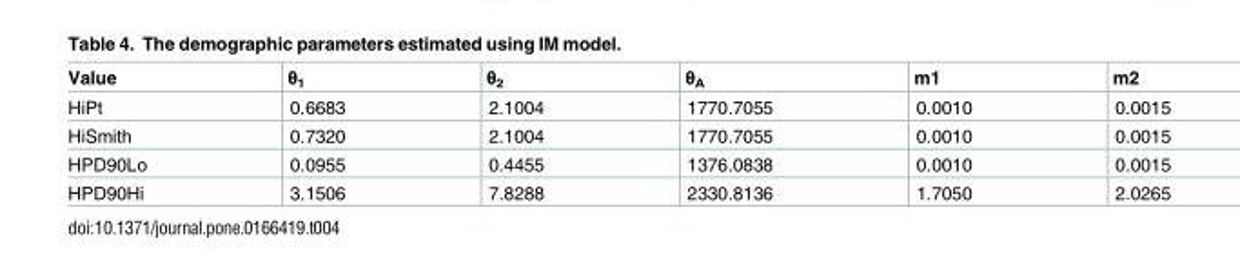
<table><thead><tr><td>Value</td><td>θ<sub>1</sub></td><td>θ<sub>2</sub></td><td>θ<sub>A</sub></td><td>m1</td><td>m2</td></tr></thead><tbody><tr><td>HiPt</td><td>0.6683</td><td>2.1004</td><td>1770.7055</td><td>0.0010</td><td>0.0015</td></tr><tr><td>HiSmith</td><td>0.7320</td><td>2.1004</td><td>1770.7055</td><td>0.0010</td><td>0.0015</td></tr><tr><td>HPD90Lo</td><td>0.0955</td><td>0.4455</td><td>1376.0838</td><td>0.0010</td><td>0.0015</td></tr><tr><td>HPD90Hi</td><td>3.1506</td><td>7.8288</td><td>2330.8136</td><td>1.7050</td><td>2.0265</td></tr></tbody></table>